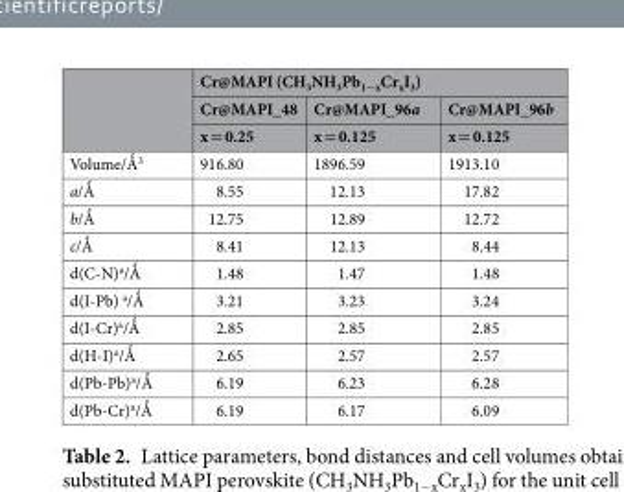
<table><thead><tr><td rowspan="3"></td><td colspan="3">Cr@MAPI (CH<sub>3</sub>NH<sub>3</sub>Pb<sub>1−x</sub>Cr<sub>x</sub>I<sub>3</sub>)</td></tr><tr><td rowspan="2">Cr@MAPI_48 x = 0.25</td><td rowspan="2">Cr@MAPI_96a x = 0.125</td><td rowspan="2">Cr@MAPI_96b x = 0.125</td></tr><tr></tr></thead><tbody><tr><td>Volume/Ǻ<sup>3</sup></td><td>916.80</td><td>1896.59</td><td>1913.10</td></tr><tr><td>a/Ǻ</td><td>8.55</td><td>12.13</td><td>17.82</td></tr><tr><td>b/Ǻ</td><td>12.75</td><td>12.89</td><td>12.72</td></tr><tr><td>c/Ǻ</td><td>8.41</td><td>12.13</td><td>8.44</td></tr><tr><td>d(C-N)<sup>a</sup>/Ǻ</td><td>1.48</td><td>1.47</td><td>1.48</td></tr><tr><td>d(I-Pb) <sup>a</sup>/Ǻ</td><td>3.21</td><td>3.23</td><td>3.24</td></tr><tr><td>d(I-Cr)<sup>a</sup>/Ǻ</td><td>2.85</td><td>2.85</td><td>2.85</td></tr><tr><td>d(H-I)<sup>a</sup>/Ǻ</td><td>2.65</td><td>2.57</td><td>2.57</td></tr><tr><td>d(Pb-Pb)<sup>a</sup>/Ǻ</td><td>6.19</td><td>6.23</td><td>6.28</td></tr><tr><td>d(Pb-Cr)<sup>a</sup>/Ǻ</td><td>6.19</td><td>6.17</td><td>6.09</td></tr></tbody></table>